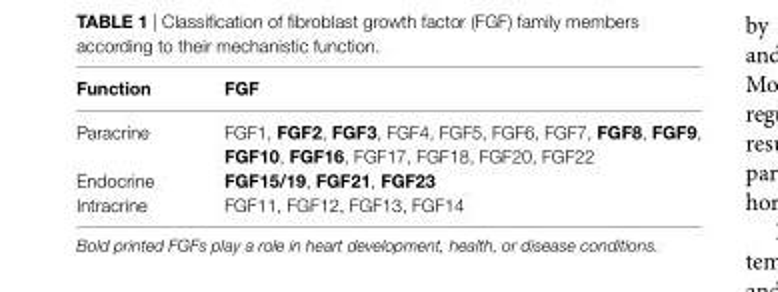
<table><thead><tr><td>Function</td><td>FGF</td></tr></thead><tbody><tr><td>Paracrine</td><td>FGF1, FGF2, FGF3, FGF4, FGF5, FGF6, FGF7, FGF8, FGF9, FGF10, FGF16, FGF17, FGF18, FGF20, FGF22</td></tr><tr><td>Endocrine</td><td>FGF15/19, FGF21, FGF23</td></tr><tr><td>Intracrine</td><td>FGF11, FGF12, FGF13, FGF14</td></tr></tbody></table>